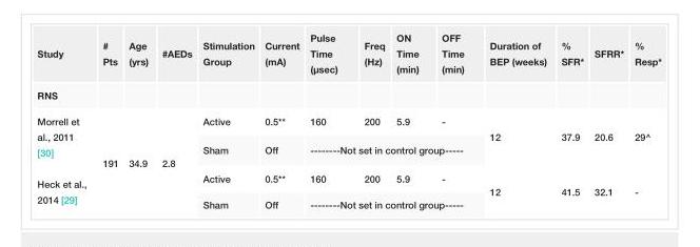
<table><tbody><tr><td>Study</td><td># Pts</td><td>Age (yrs)</td><td>#AEDs</td><td>Stimulation Group</td><td>Current (mA)</td><td>Pulse Time (μsec)</td><td>Freq (Hz)</td><td>ON Time (min)</td><td>OFF Time (min)</td><td>Duration of BEP (weeks)</td><td>% SFR*</td><td>SFRR*</td><td>% Resp*</td></tr><tr><td colspan="14">RNS</td></tr><tr><td rowspan="2">Morrell et al., 2011 [30]</td><td rowspan="4">191</td><td rowspan="4">34.9</td><td rowspan="4">2.8</td><td>Active</td><td>0.5**</td><td>160</td><td>200</td><td>5.9</td><td>-</td><td rowspan="2">12</td><td rowspan="2">37.9</td><td rowspan="2">20.6</td><td rowspan="2">29^</td></tr><tr><td>Sham</td><td>Off</td><td colspan="4">--------Not set in control group-----</td></tr><tr><td rowspan="2">Heck et al., 2014 [29]</td><td>Active</td><td>0.5**</td><td>160</td><td>200</td><td>5.9</td><td>-</td><td rowspan="2">12</td><td rowspan="2">41.5</td><td rowspan="2">32.1</td><td rowspan="2">-</td></tr><tr><td>Sham</td><td>Off</td><td colspan="4">--------Not set in control group-----</td></tr></tbody></table>